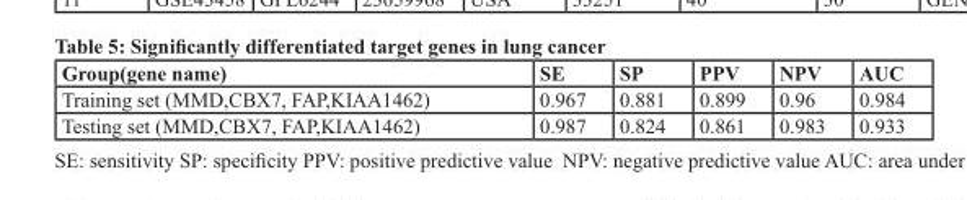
<table><thead><tr><td>Group(gene name)</td><td>SE</td><td>SP</td><td>PPV</td><td>NPV</td><td>AUC</td></tr></thead><tbody><tr><td>Training set (MMD,CBX7, FAP,KIAA1462)</td><td>0.967</td><td>0.881</td><td>0.899</td><td>0.96</td><td>0.984</td></tr><tr><td>Testing set (MMD,CBX7, FAP,KIAA1462)</td><td>0.987</td><td>0.824</td><td>0.861</td><td>0.983</td><td>0.933</td></tr></tbody></table>